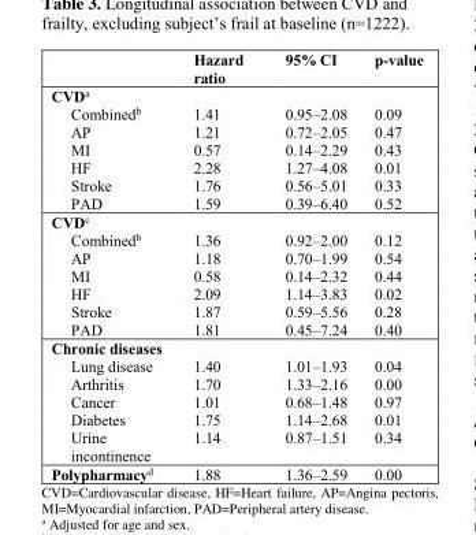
<table><thead><tr><td></td><td>Hazard ratio</td><td>95% CI</td><td>p-value</td></tr></thead><tbody><tr><td colspan="4">CVD<sup>a</sup></td></tr><tr><td>Combined<sup>b</sup></td><td>1.41</td><td>0.95–2.08</td><td>0.09</td></tr><tr><td>AP</td><td>1.21</td><td>0.72–2.05</td><td>0.47</td></tr><tr><td>MI</td><td>0.57</td><td>0.14–2.29</td><td>0.43</td></tr><tr><td>HF</td><td>2.28</td><td>1.27–4.08</td><td>0.01</td></tr><tr><td>Stroke</td><td>1.76</td><td>0.56–5.01</td><td>0.33</td></tr><tr><td>PAD</td><td>1.59</td><td>0.39–6.40</td><td>0.52</td></tr><tr><td colspan="4">CVD<sup>c</sup></td></tr><tr><td>Combined<sup>b</sup></td><td>1.36</td><td>0.92–2.00</td><td>0.12</td></tr><tr><td>AP</td><td>1.18</td><td>0.70–1.99</td><td>0.54</td></tr><tr><td>MI</td><td>0.58</td><td>0.14–2.32</td><td>0.44</td></tr><tr><td>HF</td><td>2.09</td><td>1.14–3.83</td><td>0.02</td></tr><tr><td>Stroke</td><td>1.87</td><td>0.59–5.56</td><td>0.28</td></tr><tr><td>PAD</td><td>1.81</td><td>0.45–7.24</td><td>0.40</td></tr><tr><td colspan="4">Chronic diseases</td></tr><tr><td>Lung disease</td><td>1.40</td><td>1.01–1.93</td><td>0.04</td></tr><tr><td>Arthritis</td><td>1.70</td><td>1.33–2.16</td><td>0.00</td></tr><tr><td>Cancer</td><td>1.01</td><td>0.68–1.48</td><td>0.97</td></tr><tr><td>Diabetes</td><td>1.75</td><td>1.14–2.68</td><td>0.01</td></tr><tr><td>Urine incontinence</td><td>1.14</td><td>0.87–1.51</td><td>0.34</td></tr><tr><td>Polypharmacy<sup>d</sup></td><td>1.88</td><td>1.36–2.59</td><td>0.00</td></tr></tbody></table>